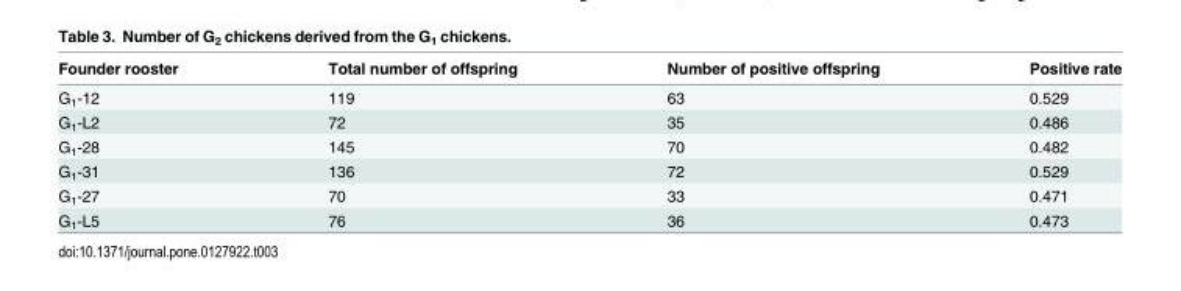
<table><thead><tr><td>Founder rooster</td><td>Total number of offspring</td><td>Number of positive offspring</td><td>Positive rate</td></tr></thead><tbody><tr><td>G<sub>1</sub>-12</td><td>119</td><td>63</td><td>0.529</td></tr><tr><td>G<sub>1</sub>-L2</td><td>72</td><td>35</td><td>0.486</td></tr><tr><td>G<sub>1</sub>-28</td><td>145</td><td>70</td><td>0.482</td></tr><tr><td>G<sub>1</sub>-31</td><td>136</td><td>72</td><td>0.529</td></tr><tr><td>G<sub>1</sub>-27</td><td>70</td><td>33</td><td>0.471</td></tr><tr><td>G<sub>1</sub>-L5</td><td>76</td><td>36</td><td>0.473</td></tr></tbody></table>